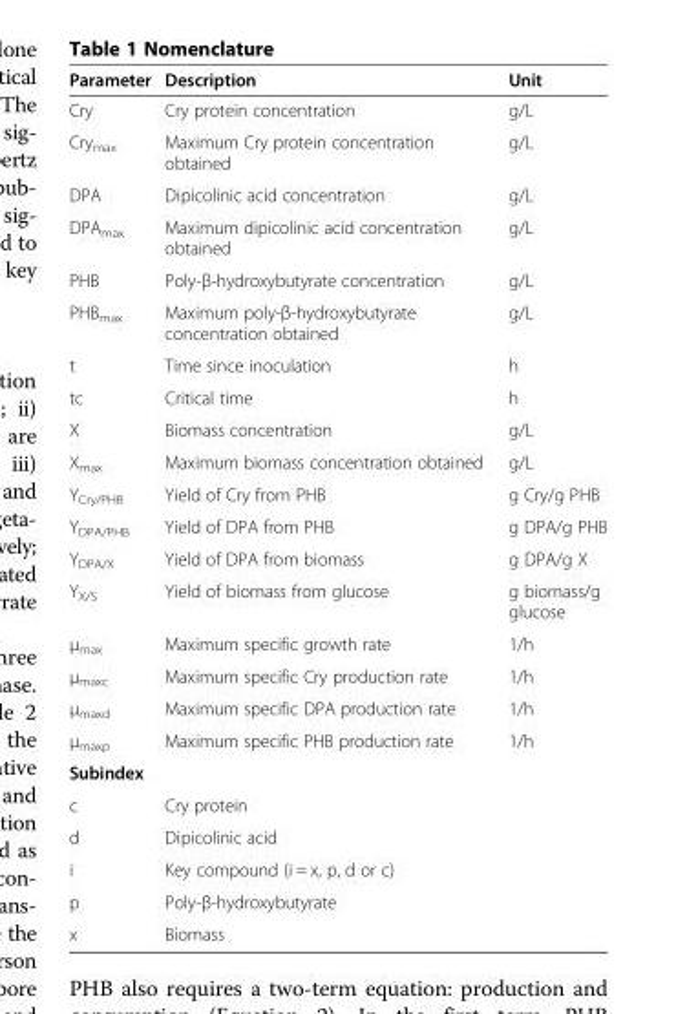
<table><thead><tr><td>Parameter</td><td>Description</td><td>Unit</td></tr></thead><tbody><tr><td>Cry</td><td>Cry protein concentration</td><td>g/L</td></tr><tr><td>Cry<sub>max</sub></td><td>Maximum Cry protein concentration obtained</td><td>g/L</td></tr><tr><td>DPA</td><td>Dipicolinic acid concentration</td><td>g/L</td></tr><tr><td>DPA<sub>max</sub></td><td>Maximum dipicolinic acid concentration obtained</td><td>g/L</td></tr><tr><td>PHB</td><td>Poly-β-hydroxybutyrate concentration</td><td>g/L</td></tr><tr><td>PHB<sub>max</sub></td><td>Maximum poly-β-hydroxybutyrate concentration obtained</td><td>g/L</td></tr><tr><td>t</td><td>Time since inoculation</td><td>h</td></tr><tr><td>tc</td><td>Critical time</td><td>h</td></tr><tr><td>X</td><td>Biomass concentration</td><td>g/L</td></tr><tr><td>X<sub>max</sub></td><td>Maximum biomass concentration obtained</td><td>g/L</td></tr><tr><td>Y<sub>Cry/PHB</sub></td><td>Yield of Cry from PHB</td><td>g Cry/g PHB</td></tr><tr><td>Y<sub>DPA/PHB</sub></td><td>Yield of DPA from PHB</td><td>g DPA/g PHB</td></tr><tr><td>Y<sub>DPA/X</sub></td><td>Yield of DPA from biomass</td><td>g DPA/g X</td></tr><tr><td>Y<sub>X/S</sub></td><td>Yield of biomass from glucose</td><td>g biomass/g glucose</td></tr><tr><td>μ<sub>max</sub></td><td>Maximum specific growth rate</td><td>1/h</td></tr><tr><td>μ<sub>maxc</sub></td><td>Maximum specific Cry production rate</td><td>1/h</td></tr><tr><td>μ<sub>maxd</sub></td><td>Maximum specific DPA production rate</td><td>1/h</td></tr><tr><td>μ<sub>maxp</sub></td><td>Maximum specific PHB production rate</td><td>1/h</td></tr><tr><td colspan="3">Subindex</td></tr><tr><td>c</td><td colspan="2">Cry protein</td></tr><tr><td>d</td><td colspan="2">Dipicolinic acid</td></tr><tr><td>i</td><td colspan="2">Key compound (i = x, p, d or c)</td></tr><tr><td>p</td><td colspan="2">Poly-β-hydroxybutyrate</td></tr><tr><td>x</td><td colspan="2">Biomass</td></tr></tbody></table>